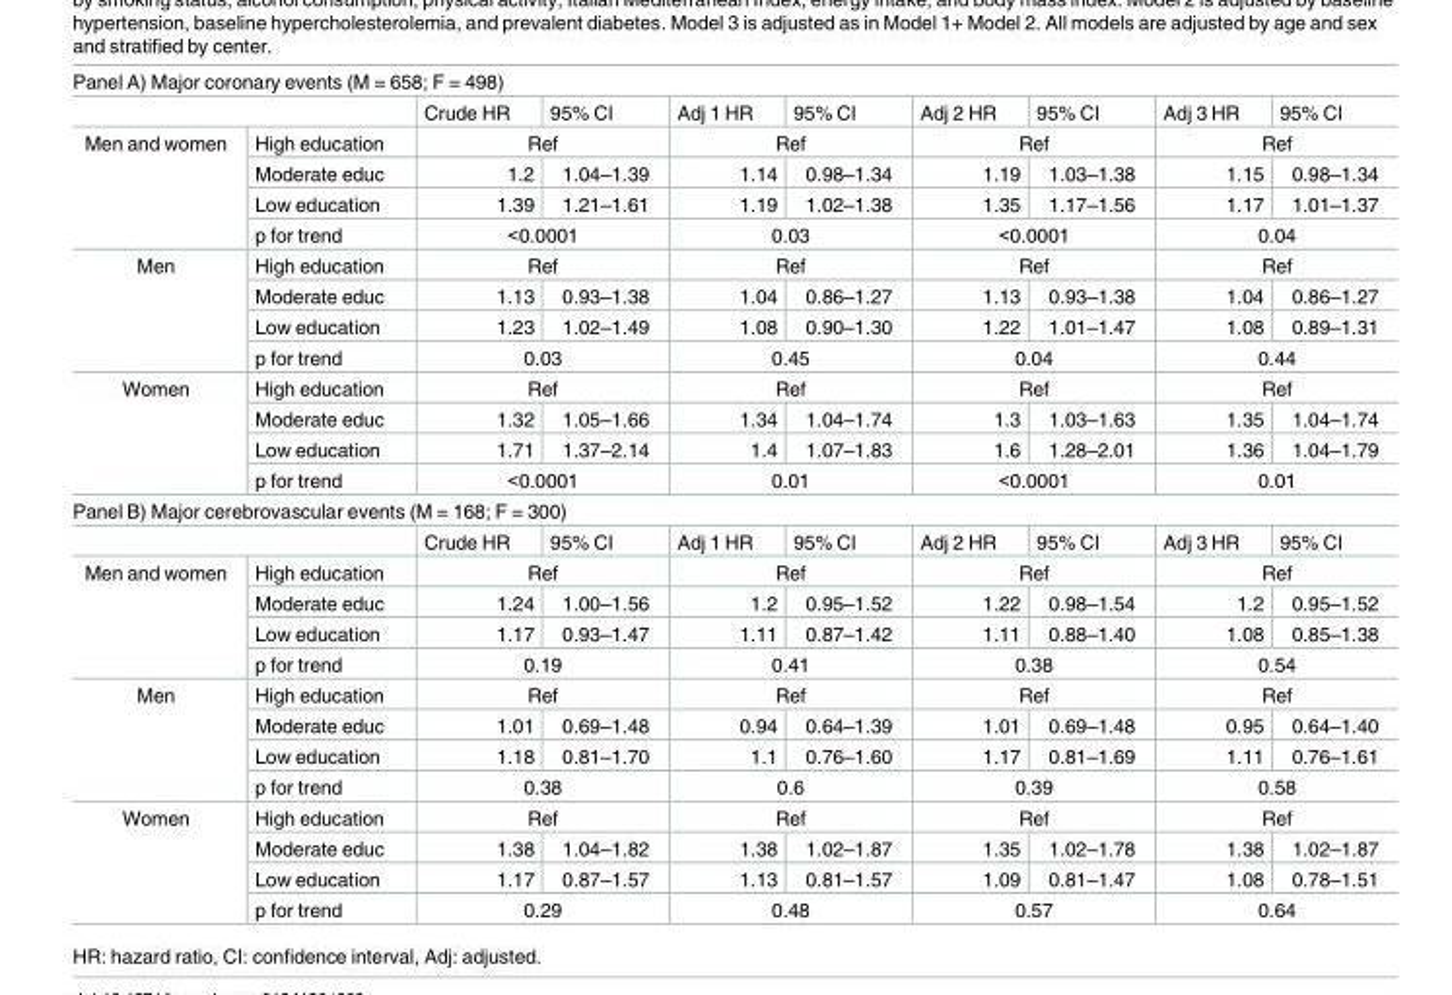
<table><tbody><tr><td colspan="10">Panel A) Major coronary events (M = 658; F = 498)</td></tr><tr><td colspan="2"></td><td>Crude HR</td><td>95% CI</td><td>Adj 1 HR</td><td>95% CI</td><td>Adj 2 HR</td><td>95% CI</td><td>Adj 3 HR</td><td>95% CI</td></tr><tr><td rowspan="4">Men and women</td><td>High education</td><td colspan="2">Ref</td><td colspan="2">Ref</td><td colspan="2">Ref</td><td colspan="2">Ref</td></tr><tr><td>Moderate educ</td><td>1.2</td><td>1.04–1.39</td><td>1.14</td><td>0.98–1.34</td><td>1.19</td><td>1.03–1.38</td><td>1.15</td><td>0.98–1.34</td></tr><tr><td>Low education</td><td>1.39</td><td>1.21–1.61</td><td>1.19</td><td>1.02–1.38</td><td>1.35</td><td>1.17–1.56</td><td>1.17</td><td>1.01–1.37</td></tr><tr><td>p for trend</td><td colspan="2">&lt;0.0001</td><td colspan="2">0.03</td><td colspan="2">&lt;0.0001</td><td colspan="2">0.04</td></tr><tr><td rowspan="4">Men</td><td>High education</td><td colspan="2">Ref</td><td colspan="2">Ref</td><td colspan="2">Ref</td><td colspan="2">Ref</td></tr><tr><td>Moderate educ</td><td>1.13</td><td>0.93–1.38</td><td>1.04</td><td>0.86–1.27</td><td>1.13</td><td>0.93–1.38</td><td>1.04</td><td>0.86–1.27</td></tr><tr><td>Low education</td><td>1.23</td><td>1.02–1.49</td><td>1.08</td><td>0.90–1.30</td><td>1.22</td><td>1.01–1.47</td><td>1.08</td><td>0.89–1.31</td></tr><tr><td>p for trend</td><td colspan="2">0.03</td><td colspan="2">0.45</td><td colspan="2">0.04</td><td colspan="2">0.44</td></tr><tr><td rowspan="4">Women</td><td>High education</td><td colspan="2">Ref</td><td colspan="2">Ref</td><td colspan="2">Ref</td><td colspan="2">Ref</td></tr><tr><td>Moderate educ</td><td>1.32</td><td>1.05–1.66</td><td>1.34</td><td>1.04–1.74</td><td>1.3</td><td>1.03–1.63</td><td>1.35</td><td>1.04–1.74</td></tr><tr><td>Low education</td><td>1.71</td><td>1.37–2.14</td><td>1.4</td><td>1.07–1.83</td><td>1.6</td><td>1.28–2.01</td><td>1.36</td><td>1.04–1.79</td></tr><tr><td>p for trend</td><td colspan="2">&lt;0.0001</td><td colspan="2">0.01</td><td colspan="2">&lt;0.0001</td><td colspan="2">0.01</td></tr><tr><td colspan="10">Panel B) Major cerebrovascular events (M = 168; F = 300)</td></tr><tr><td colspan="2"></td><td>Crude HR</td><td>95% CI</td><td>Adj 1 HR</td><td>95% CI</td><td>Adj 2 HR</td><td>95% CI</td><td>Adj 3 HR</td><td>95% CI</td></tr><tr><td rowspan="4">Men and women</td><td>High education</td><td colspan="2">Ref</td><td colspan="2">Ref</td><td colspan="2">Ref</td><td colspan="2">Ref</td></tr><tr><td>Moderate educ</td><td>1.24</td><td>1.00–1.56</td><td>1.2</td><td>0.95–1.52</td><td>1.22</td><td>0.98–1.54</td><td>1.2</td><td>0.95–1.52</td></tr><tr><td>Low education</td><td>1.17</td><td>0.93–1.47</td><td>1.11</td><td>0.87–1.42</td><td>1.11</td><td>0.88–1.40</td><td>1.08</td><td>0.85–1.38</td></tr><tr><td>p for trend</td><td colspan="2">0.19</td><td colspan="2">0.41</td><td colspan="2">0.38</td><td colspan="2">0.54</td></tr><tr><td rowspan="4">Men</td><td>High education</td><td colspan="2">Ref</td><td colspan="2">Ref</td><td colspan="2">Ref</td><td colspan="2">Ref</td></tr><tr><td>Moderate educ</td><td>1.01</td><td>0.69–1.48</td><td>0.94</td><td>0.64–1.39</td><td>1.01</td><td>0.69–1.48</td><td>0.95</td><td>0.64–1.40</td></tr><tr><td>Low education</td><td>1.18</td><td>0.81–1.70</td><td>1.1</td><td>0.76–1.60</td><td>1.17</td><td>0.81–1.69</td><td>1.11</td><td>0.76–1.61</td></tr><tr><td>p for trend</td><td colspan="2">0.38</td><td colspan="2">0.6</td><td colspan="2">0.39</td><td colspan="2">0.58</td></tr><tr><td rowspan="4">Women</td><td>High education</td><td colspan="2">Ref</td><td colspan="2">Ref</td><td colspan="2">Ref</td><td colspan="2">Ref</td></tr><tr><td>Moderate educ</td><td>1.38</td><td>1.04–1.82</td><td>1.38</td><td>1.02–1.87</td><td>1.35</td><td>1.02–1.78</td><td>1.38</td><td>1.02–1.87</td></tr><tr><td>Low education</td><td>1.17</td><td>0.87–1.57</td><td>1.13</td><td>0.81–1.57</td><td>1.09</td><td>0.81–1.47</td><td>1.08</td><td>0.78–1.51</td></tr><tr><td>p for trend</td><td colspan="2">0.29</td><td colspan="2">0.48</td><td colspan="2">0.57</td><td colspan="2">0.64</td></tr></tbody></table>